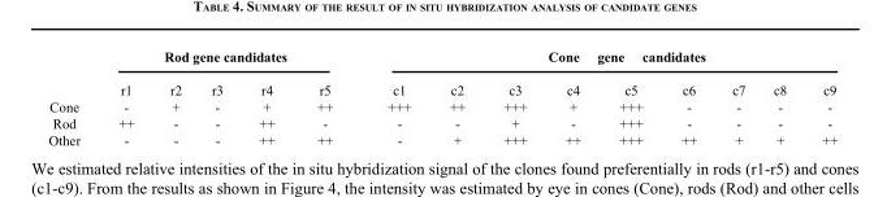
<table><thead><tr><td rowspan="2"></td><td colspan="5">Rod gene candidates</td><td colspan="9">Cone gene candidates</td></tr><tr><td>r1</td><td>r2</td><td>r3</td><td>r4</td><td>r5</td><td>c1</td><td>c2</td><td>c3</td><td>c4</td><td>c5</td><td>c6</td><td>c7</td><td>c8</td><td>c9</td></tr></thead><tbody><tr><td>Cone</td><td>-</td><td>+</td><td>-</td><td>+</td><td>++</td><td>+++</td><td>++</td><td>+++</td><td>+</td><td>+++</td><td>-</td><td>-</td><td>-</td><td>-</td></tr><tr><td>Rod</td><td>++</td><td>-</td><td>-</td><td>++</td><td>-</td><td>-</td><td>-</td><td>+</td><td>-</td><td>+++</td><td>-</td><td>-</td><td>-</td><td>-</td></tr><tr><td>Other</td><td>-</td><td>-</td><td>-</td><td>++</td><td>++</td><td>-</td><td>+</td><td>+++</td><td>++</td><td>+++</td><td>++</td><td>+</td><td>+</td><td>++</td></tr></tbody></table>